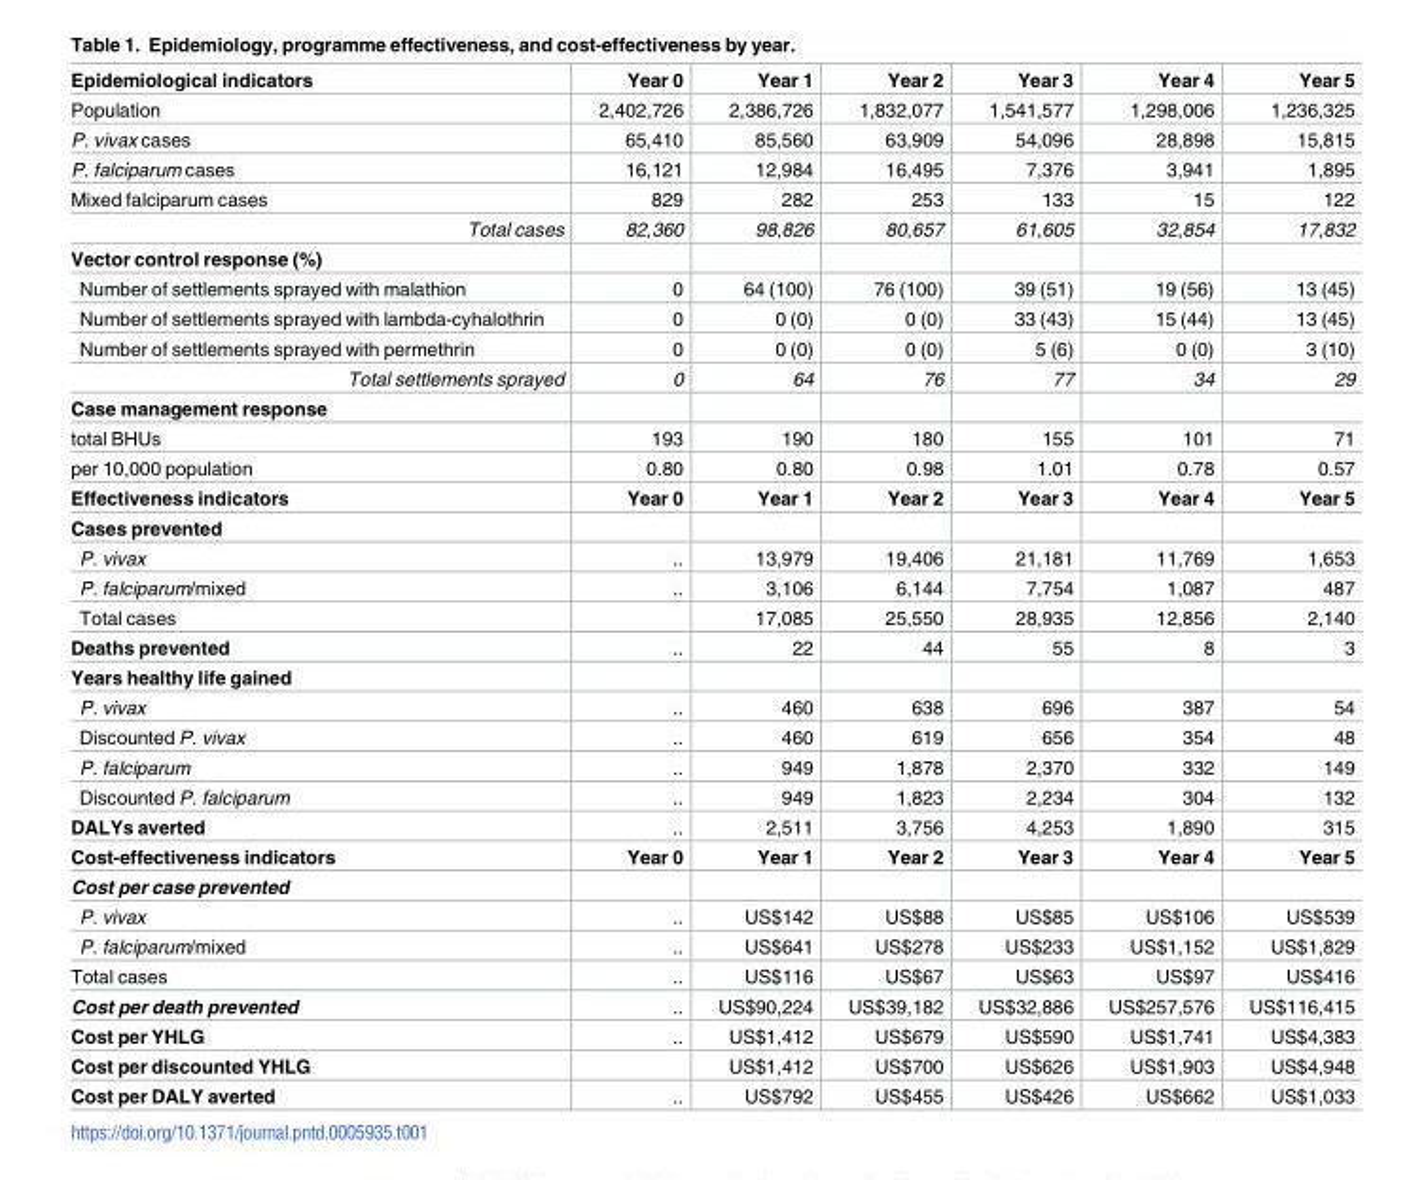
<table><tbody><tr><td>Epidemiological indicators</td><td>Year 0</td><td>Year 1</td><td>Year 2</td><td>Year 3</td><td>Year 4</td><td>Year 5</td></tr><tr><td>Population</td><td>2,402,726</td><td>2,386,726</td><td>1,832,077</td><td>1,541,577</td><td>1,298,006</td><td>1,236,325</td></tr><tr><td>P. vivax cases</td><td>65,410</td><td>85,560</td><td>63,909</td><td>54,096</td><td>28,898</td><td>15,815</td></tr><tr><td>P. falciparum cases</td><td>16,121</td><td>12,984</td><td>16,495</td><td>7,376</td><td>3,941</td><td>1,895</td></tr><tr><td>Mixed falciparum cases</td><td>829</td><td>282</td><td>253</td><td>133</td><td>15</td><td>122</td></tr><tr><td>Total cases</td><td>82,360</td><td>98,826</td><td>80,657</td><td>61,605</td><td>32,854</td><td>17,832</td></tr><tr><td colspan="7">Vector control response (%)</td></tr><tr><td>Number of settlements sprayed with malathion</td><td>0</td><td>64 (100)</td><td>76 (100)</td><td>39 (51)</td><td>19 (56)</td><td>13 (45)</td></tr><tr><td>Number of settlements sprayed with lambda-cyhalothrin</td><td>0</td><td>0 (0)</td><td>0 (0)</td><td>33 (43)</td><td>15 (44)</td><td>13 (45)</td></tr><tr><td>Number of settlements sprayed with permethrin</td><td>0</td><td>0 (0)</td><td>0 (0)</td><td>5 (6)</td><td>0 (0)</td><td>3 (10)</td></tr><tr><td>Total settlements sprayed</td><td>0</td><td>64</td><td>76</td><td>77</td><td>34</td><td>29</td></tr><tr><td colspan="7">Case management response</td></tr><tr><td>total BHUs</td><td>193</td><td>190</td><td>180</td><td>155</td><td>101</td><td>71</td></tr><tr><td>per 10,000 population</td><td>0.80</td><td>0.80</td><td>0.98</td><td>1.01</td><td>0.78</td><td>0.57</td></tr><tr><td>Effectiveness indicators</td><td>Year 0</td><td>Year 1</td><td>Year 2</td><td>Year 3</td><td>Year 4</td><td>Year 5</td></tr><tr><td colspan="7">Cases prevented</td></tr><tr><td>P. vivax</td><td>..</td><td>13,979</td><td>19,406</td><td>21,181</td><td>11,769</td><td>1,653</td></tr><tr><td>P. falciparum/mixed</td><td>..</td><td>3,106</td><td>6,144</td><td>7,754</td><td>1,087</td><td>487</td></tr><tr><td>Total cases</td><td></td><td>17,085</td><td>25,550</td><td>28,935</td><td>12,856</td><td>2,140</td></tr><tr><td>Deaths prevented</td><td>..</td><td>22</td><td>44</td><td>55</td><td>8</td><td>3</td></tr><tr><td colspan="7">Years healthy life gained</td></tr><tr><td>P. vivax</td><td>..</td><td>460</td><td>638</td><td>696</td><td>387</td><td>54</td></tr><tr><td>Discounted P. vivax</td><td>..</td><td>460</td><td>619</td><td>656</td><td>354</td><td>48</td></tr><tr><td>P. falciparum</td><td>..</td><td>949</td><td>1,878</td><td>2,370</td><td>332</td><td>149</td></tr><tr><td>Discounted P. falciparum</td><td>..</td><td>949</td><td>1,823</td><td>2,234</td><td>304</td><td>132</td></tr><tr><td>DALYs averted</td><td>..</td><td>2,511</td><td>3,756</td><td>4,253</td><td>1,890</td><td>315</td></tr><tr><td>Cost-effectiveness indicators</td><td>Year 0</td><td>Year 1</td><td>Year 2</td><td>Year 3</td><td>Year 4</td><td>Year 5</td></tr><tr><td colspan="7">Cost per case prevented</td></tr><tr><td>P. vivax</td><td>..</td><td>US$142</td><td>US$88</td><td>US$85</td><td>US$106</td><td>US$539</td></tr><tr><td>P. falciparum/mixed</td><td>..</td><td>US$641</td><td>US$278</td><td>US$233</td><td>US$1,152</td><td>US$1,829</td></tr><tr><td>Total cases</td><td>..</td><td>US$116</td><td>US$67</td><td>US$63</td><td>US$97</td><td>US$416</td></tr><tr><td>Cost per death prevented</td><td>..</td><td>US$90,224</td><td>US$39,182</td><td>US$32,886</td><td>US$257,576</td><td>US$116,415</td></tr><tr><td>Cost per YHLG</td><td>..</td><td>US$1,412</td><td>US$679</td><td>US$590</td><td>US$1,741</td><td>US$4,383</td></tr><tr><td>Cost per discounted YHLG</td><td></td><td>US$1,412</td><td>US$700</td><td>US$626</td><td>US$1,903</td><td>US$4,948</td></tr><tr><td>Cost per DALY averted</td><td>..</td><td>US$792</td><td>US$455</td><td>US$426</td><td>US$662</td><td>US$1,033</td></tr></tbody></table>